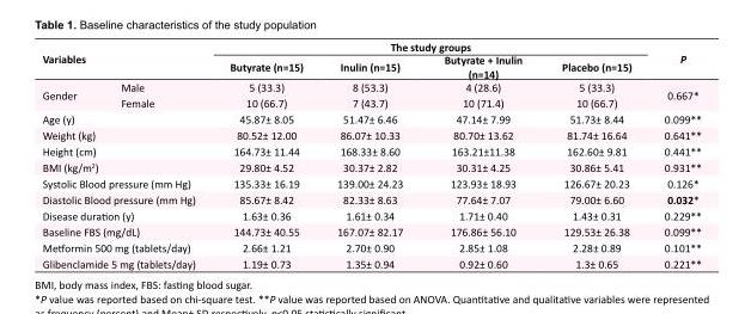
<table><tbody><tr><td rowspan="2" colspan="2">Variables</td><td colspan="4">The study groups</td><td rowspan="2">P</td></tr><tr><td>Butyrate (n=15)</td><td>Inulin (n=15)</td><td>Butyrate + Inulin (n=14)</td><td>Placebo (n=15)</td></tr><tr><td rowspan="2">Gender</td><td>Male</td><td>5 (33.3)</td><td>8 (53.3)</td><td>4 (28.6)</td><td>5 (33.3)</td><td rowspan="2">0.667*</td></tr><tr><td>Female</td><td>10 (66.7)</td><td>7 (43.7)</td><td>10 (71.4)</td><td>10 (66.7)</td></tr><tr><td colspan="2">Age (y)</td><td>45.87± 8.05</td><td>51.47± 6.46</td><td>47.14± 7.99</td><td>51.73± 8.44</td><td>0.099**</td></tr><tr><td colspan="2">Weight (kg)</td><td>80.52± 12.00</td><td>86.07± 10.33</td><td>80.70± 13.62</td><td>81.74± 16.64</td><td>0.641**</td></tr><tr><td colspan="2">Height (cm)</td><td>164.73± 11.44</td><td>168.33± 8.60</td><td>163.21±11.38</td><td>162.60± 9.81</td><td>0.441**</td></tr><tr><td colspan="2">BMI (kg/m<sup>2</sup>)</td><td>29.80± 4.52</td><td>30.37± 2.82</td><td>30.31± 4.25</td><td>30.86± 5.41</td><td>0.931**</td></tr><tr><td colspan="2">Systolic Blood pressure (mm Hg)</td><td>135.33± 16.19</td><td>139.00± 24.23</td><td>123.93± 18.93</td><td>126.67± 20.23</td><td>0.126*</td></tr><tr><td colspan="2">Diastolic Blood pressure (mm Hg)</td><td>85.67± 8.42</td><td>82.33± 8.63</td><td>77.64± 7.07</td><td>79.00± 6.60</td><td>0.032*</td></tr><tr><td colspan="2">Disease duration (y)</td><td>1.63± 0.36</td><td>1.61± 0.34</td><td>1.71± 0.40</td><td>1.43± 0.31</td><td>0.229**</td></tr><tr><td colspan="2">Baseline FBS (mg/dL)</td><td>144.73± 40.55</td><td>167.07± 82.17</td><td>176.86± 56.10</td><td>129.53± 26.38</td><td>0.099**</td></tr><tr><td colspan="2">Metformin 500 mg (tablets/day)</td><td>2.66± 1.21</td><td>2.70± 0.90</td><td>2.85± 1.08</td><td>2.28± 0.89</td><td>0.101**</td></tr><tr><td colspan="2">Glibenclamide 5 mg (tablets/day)</td><td>1.19± 0.73</td><td>1.35± 0.94</td><td>0.92± 0.60</td><td>1.3± 0.65</td><td>0.221**</td></tr></tbody></table>